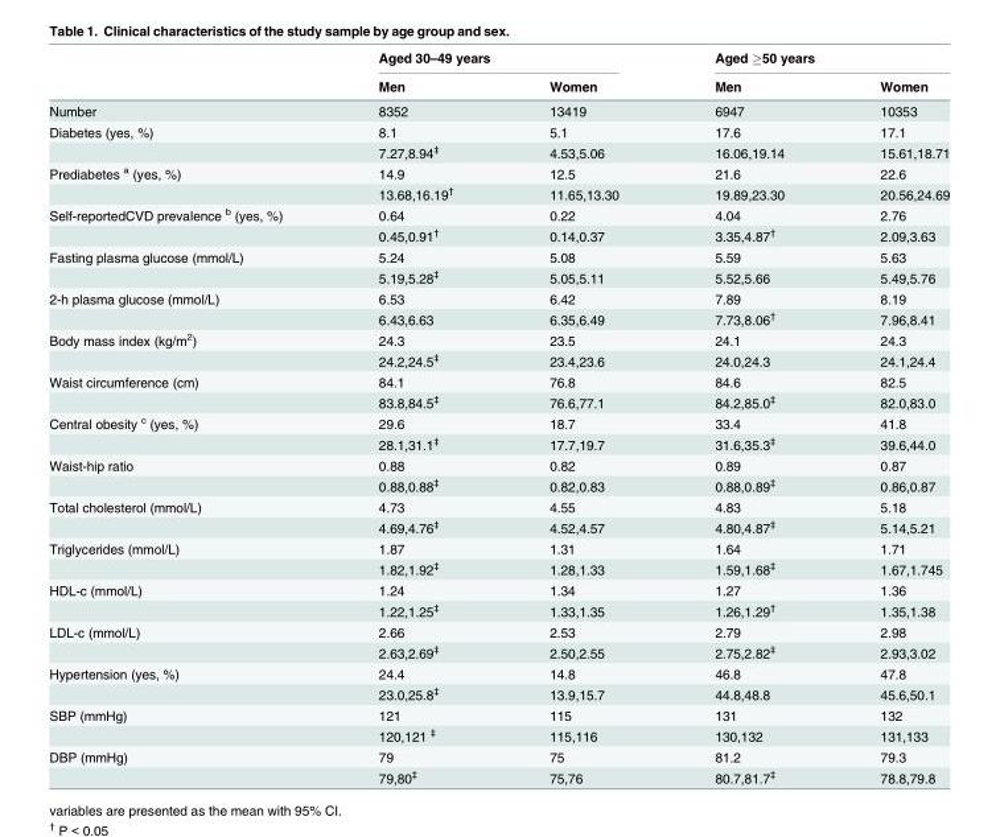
<table><thead><tr><td rowspan="2"></td><td colspan="2">Aged 30–49 years</td><td colspan="2">Aged ≥50 years</td></tr><tr><td>Men</td><td>Women</td><td>Men</td><td>Women</td></tr></thead><tbody><tr><td>Number</td><td>8352</td><td>13419</td><td>6947</td><td>10353</td></tr><tr><td rowspan="2">Diabetes (yes, %)</td><td>8.1</td><td>5.1</td><td>17.6</td><td>17.1</td></tr><tr><td>7.27,8.94<sup>‡</sup></td><td>4.53,5.06</td><td>16.06,19.14</td><td>15.61,18.71</td></tr><tr><td rowspan="2">Prediabetes <sup>a</sup> (yes, %)</td><td>14.9</td><td>12.5</td><td>21.6</td><td>22.6</td></tr><tr><td>13.68,16.19<sup>†</sup></td><td>11.65,13.30</td><td>19.89,23.30</td><td>20.56,24.69</td></tr><tr><td rowspan="2">Self-reportedCVD prevalence <sup>b</sup> (yes, %)</td><td>0.64</td><td>0.22</td><td>4.04</td><td>2.76</td></tr><tr><td>0.45,0.91<sup>†</sup></td><td>0.14,0.37</td><td>3.35,4.87<sup>†</sup></td><td>2.09,3.63</td></tr><tr><td rowspan="2">Fasting plasma glucose (mmol/L)</td><td>5.24</td><td>5.08</td><td>5.59</td><td>5.63</td></tr><tr><td>5.19,5.28<sup>‡</sup></td><td>5.05,5.11</td><td>5.52,5.66</td><td>5.49,5.76</td></tr><tr><td rowspan="2">2-h plasma glucose (mmol/L)</td><td>6.53</td><td>6.42</td><td>7.89</td><td>8.19</td></tr><tr><td>6.43,6.63</td><td>6.35,6.49</td><td>7.73,8.06<sup>†</sup></td><td>7.96,8.41</td></tr><tr><td rowspan="2">Body mass index (kg/m<sup>2</sup>)</td><td>24.3</td><td>23.5</td><td>24.1</td><td>24.3</td></tr><tr><td>24.2,24.5<sup>‡</sup></td><td>23.4,23.6</td><td>24.0,24.3</td><td>24.1,24.4</td></tr><tr><td rowspan="2">Waist circumference (cm)</td><td>84.1</td><td>76.8</td><td>84.6</td><td>82.5</td></tr><tr><td>83.8,84.5<sup>‡</sup></td><td>76.6,77.1</td><td>84.2,85.0<sup>‡</sup></td><td>82.0,83.0</td></tr><tr><td rowspan="2">Central obesity <sup>c</sup> (yes, %)</td><td>29.6</td><td>18.7</td><td>33.4</td><td>41.8</td></tr><tr><td>28.1,31.1<sup>‡</sup></td><td>17.7,19.7</td><td>31.6,35.3<sup>‡</sup></td><td>39.6,44.0</td></tr><tr><td rowspan="2">Waist-hip ratio</td><td>0.88</td><td>0.82</td><td>0.89</td><td>0.87</td></tr><tr><td>0.88,0.88<sup>‡</sup></td><td>0.82,0.83</td><td>0.88,0.89<sup>‡</sup></td><td>0.86,0.87</td></tr><tr><td rowspan="2">Total cholesterol (mmol/L)</td><td>4.73</td><td>4.55</td><td>4.83</td><td>5.18</td></tr><tr><td>4.69,4.76<sup>‡</sup></td><td>4.52,4.57</td><td>4.80,4.87<sup>‡</sup></td><td>5.14,5.21</td></tr><tr><td rowspan="2">Triglycerides (mmol/L)</td><td>1.87</td><td>1.31</td><td>1.64</td><td>1.71</td></tr><tr><td>1.82,1.92<sup>‡</sup></td><td>1.28,1.33</td><td>1.59,1.68<sup>‡</sup></td><td>1.67,1.745</td></tr><tr><td rowspan="2">HDL-c (mmol/L)</td><td>1.24</td><td>1.34</td><td>1.27</td><td>1.36</td></tr><tr><td>1.22,1.25<sup>‡</sup></td><td>1.33,1.35</td><td>1.26,1.29<sup>†</sup></td><td>1.35,1.38</td></tr><tr><td rowspan="2">LDL-c (mmol/L)</td><td>2.66</td><td>2.53</td><td>2.79</td><td>2.98</td></tr><tr><td>2.63,2.69<sup>‡</sup></td><td>2.50,2.55</td><td>2.75,2.82<sup>‡</sup></td><td>2.93,3.02</td></tr><tr><td rowspan="2">Hypertension (yes, %)</td><td>24.4</td><td>14.8</td><td>46.8</td><td>47.8</td></tr><tr><td>23.0,25.8<sup>‡</sup></td><td>13.9,15.7</td><td>44.8,48.8</td><td>45.6,50.1</td></tr><tr><td rowspan="2">SBP (mmHg)</td><td>121</td><td>115</td><td>131</td><td>132</td></tr><tr><td>120,121 <sup>‡</sup></td><td>115,116</td><td>130,132</td><td>131,133</td></tr><tr><td rowspan="2">DBP (mmHg)</td><td>79</td><td>75</td><td>81.2</td><td>79.3</td></tr><tr><td>79,80<sup>‡</sup></td><td>75,76</td><td>80.7,81.7<sup>‡</sup></td><td>78.8,79.8</td></tr></tbody></table>